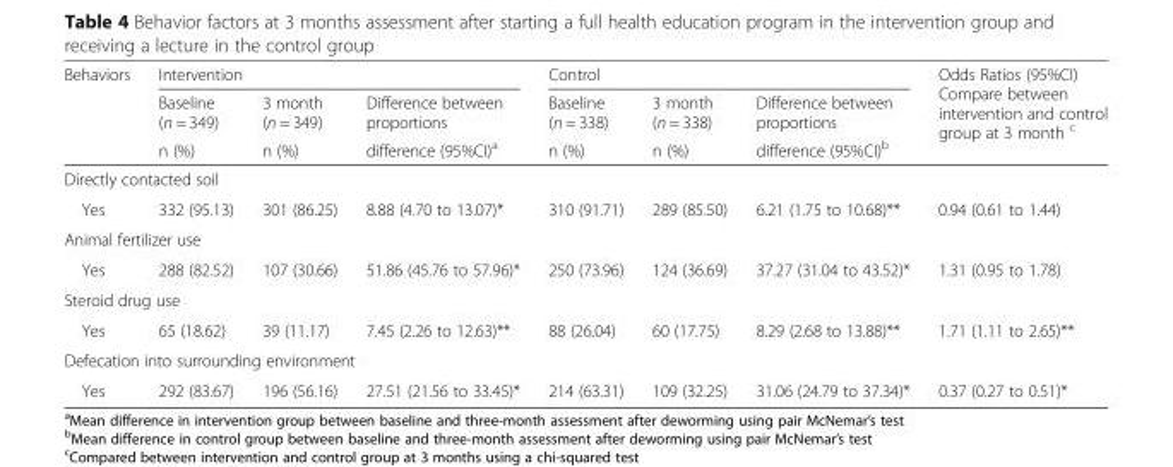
<table><thead><tr><td rowspan="3">Behaviors</td><td colspan="3">Intervention</td><td colspan="3">Control</td><td rowspan="3">Odds Ratios (95%CI) Compare between intervention and control group at 3 month <sup>c</sup></td></tr><tr><td rowspan="2">Baseline (n = 349) n (%)</td><td rowspan="2">3 month (n = 349) n (%)</td><td rowspan="2">Difference between proportions difference (95%CI)<sup>a</sup></td><td rowspan="2">Baseline (n = 338) n (%)</td><td rowspan="2">3 month (n = 338) n (%)</td><td rowspan="2">Difference between proportions difference (95%CI)<sup>b</sup></td></tr><tr></tr></thead><tbody><tr><td colspan="8">Directly contacted soil</td></tr><tr><td>Yes</td><td>332 (95.13)</td><td>301 (86.25)</td><td>8.88 (4.70 to 13.07)*</td><td>310 (91.71)</td><td>289 (85.50)</td><td>6.21 (1.75 to 10.68)**</td><td>0.94 (0.61 to 1.44)</td></tr><tr><td colspan="8">Animal fertilizer use</td></tr><tr><td>Yes</td><td>288 (82.52)</td><td>107 (30.66)</td><td>51.86 (45.76 to 57.96)*</td><td>250 (73.96)</td><td>124 (36.69)</td><td>37.27 (31.04 to 43.52)*</td><td>1.31 (0.95 to 1.78)</td></tr><tr><td colspan="8">Steroid drug use</td></tr><tr><td>Yes</td><td>65 (18.62)</td><td>39 (11.17)</td><td>7.45 (2.26 to 12.63)**</td><td>88 (26.04)</td><td>60 (17.75)</td><td>8.29 (2.68 to 13.88)**</td><td>1.71 (1.11 to 2.65)**</td></tr><tr><td colspan="8">Defecation into surrounding environment</td></tr><tr><td>Yes</td><td>292 (83.67)</td><td>196 (56.16)</td><td>27.51 (21.56 to 33.45)*</td><td>214 (63.31)</td><td>109 (32.25)</td><td>31.06 (24.79 to 37.34)*</td><td>0.37 (0.27 to 0.51)*</td></tr></tbody></table>